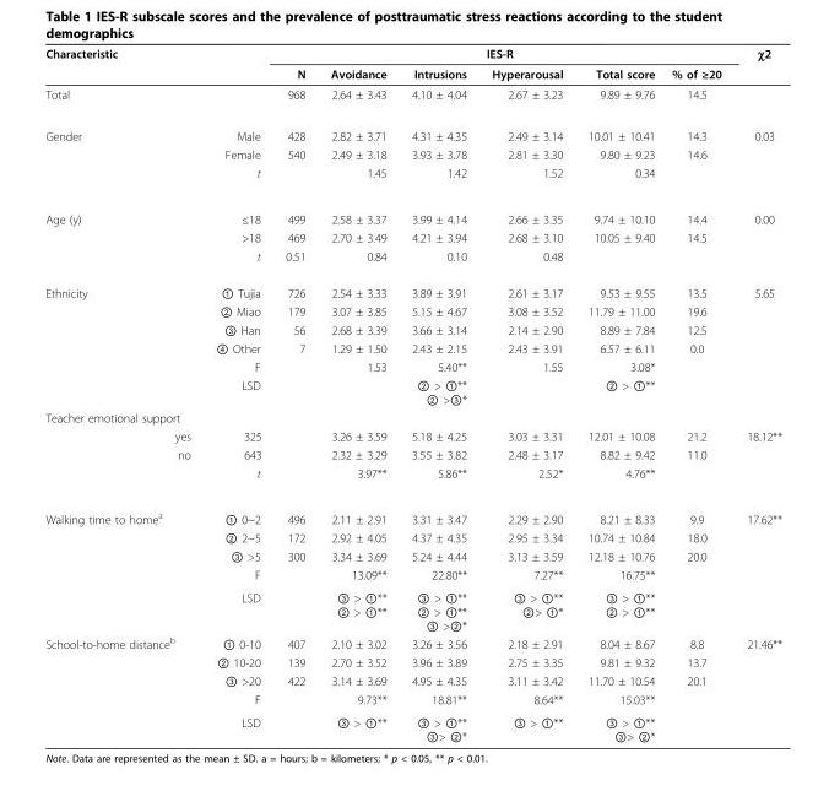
<table><thead><tr><td colspan="2">Characteristic</td><td colspan="6">IES-R</td><td rowspan="2">χ2</td></tr><tr><td></td><td></td><td>N</td><td>Avoidance</td><td>Intrusions</td><td>Hyperarousal</td><td>Total score</td><td>% of ≥20</td></tr></thead><tbody><tr><td>Total</td><td></td><td>968</td><td>2.64 ± 3.43</td><td>4.10 ± 4.04</td><td>2.67 ± 3.23</td><td>9.89 ± 9.76</td><td>14.5</td><td></td></tr><tr><td rowspan="3">Gender</td><td>Male</td><td>428</td><td>2.82 ± 3.71</td><td>4.31 ± 4.35</td><td>2.49 ± 3.14</td><td>10.01 ± 10.41</td><td>14.3</td><td>0.03</td></tr><tr><td>Female</td><td>540</td><td>2.49 ± 3.18</td><td>3.93 ± 3.78</td><td>2.81 ± 3.30</td><td>9.80 ± 9.23</td><td>14.6</td><td></td></tr><tr><td>t</td><td></td><td>1.45</td><td>1.42</td><td>1.52</td><td>0.34</td><td></td><td></td></tr><tr><td rowspan="3">Age (y)</td><td>≤18</td><td>499</td><td>2.58 ± 3.37</td><td>3.99 ± 4.14</td><td>2.66 ± 3.35</td><td>9.74 ± 10.10</td><td>14.4</td><td>0.00</td></tr><tr><td>&gt;18</td><td>469</td><td>2.70 ± 3.49</td><td>4.21 ± 3.94</td><td>2.68 ± 3.10</td><td>10.05 ± 9.40</td><td>14.5</td><td></td></tr><tr><td>t</td><td>0.51</td><td>0.84</td><td>0.10</td><td>0.48</td><td></td><td></td><td></td></tr><tr><td rowspan="6">Ethnicity</td><td>① Tujia</td><td>726</td><td>2.54 ± 3.33</td><td>3.89 ± 3.91</td><td>2.61 ± 3.17</td><td>9.53 ± 9.55</td><td>13.5</td><td>5.65</td></tr><tr><td>② Miao</td><td>179</td><td>3.07 ± 3.85</td><td>5.15 ± 4.67</td><td>3.08 ± 3.52</td><td>11.79 ± 11.00</td><td>19.6</td><td></td></tr><tr><td>③ Han</td><td>56</td><td>2.68 ± 3.39</td><td>3.66 ± 3.14</td><td>2.14 ± 2.90</td><td>8.89 ± 7.84</td><td>12.5</td><td></td></tr><tr><td>④ Other</td><td>7</td><td>1.29 ± 1.50</td><td>2.43 ± 2.15</td><td>2.43 ± 3.91</td><td>6.57 ± 6.11</td><td>0.0</td><td></td></tr><tr><td>F</td><td></td><td>1.53</td><td>5.40**</td><td>1.55</td><td>3.08*</td><td></td><td></td></tr><tr><td>LSD</td><td></td><td></td><td>② &gt; ①** ② &gt;③*</td><td></td><td>② &gt; ①**</td><td></td><td></td></tr><tr><td colspan="9">Teacher emotional support</td></tr><tr><td>yes</td><td colspan="2">325</td><td>3.26 ± 3.59</td><td>5.18 ± 4.25</td><td>3.03 ± 3.31</td><td>12.01 ± 10.08</td><td>21.2</td><td>18.12**</td></tr><tr><td rowspan="2">no</td><td colspan="2">643</td><td>2.32 ± 3.29</td><td>3.55 ± 3.82</td><td>2.48 ± 3.17</td><td>8.82 ± 9.42</td><td>11.0</td><td></td></tr><tr><td>t</td><td></td><td>3.97**</td><td>5.86**</td><td>2.52*</td><td>4.76**</td><td></td><td></td></tr><tr><td rowspan="5">Walking time to home<sup>a</sup></td><td>① 0~2</td><td>496</td><td>2.11 ± 2.91</td><td>3.31 ± 3.47</td><td>2.29 ± 2.90</td><td>8.21 ± 8.33</td><td>9.9</td><td>17.62**</td></tr><tr><td>② 2~5</td><td>172</td><td>2.92 ± 4.05</td><td>4.37 ± 4.35</td><td>2.95 ± 3.34</td><td>10.74 ± 10.84</td><td>18.0</td><td></td></tr><tr><td>③ &gt;5</td><td>300</td><td>3.34 ± 3.69</td><td>5.24 ± 4.44</td><td>3.13 ± 3.59</td><td>12.18 ± 10.76</td><td>20.0</td><td></td></tr><tr><td>F</td><td></td><td>13.09**</td><td>22.80**</td><td>7.27**</td><td>16.75**</td><td></td><td></td></tr><tr><td>LSD</td><td></td><td>③ &gt; ①** ② &gt; ①**</td><td>③ &gt; ①** ② &gt; ①** ③ &gt;②*</td><td>③ &gt; ①** ②&gt; ①*</td><td>③ &gt; ①** ② &gt; ①**</td><td></td><td></td></tr><tr><td rowspan="5">School-to-home distance<sup>b</sup></td><td>① 0-10</td><td>407</td><td>2.10 ± 3.02</td><td>3.26 ± 3.56</td><td>2.18 ± 2.91</td><td>8.04 ± 8.67</td><td>8.8</td><td>21.46**</td></tr><tr><td>② 10-20</td><td>139</td><td>2.70 ± 3.52</td><td>3.96 ± 3.89</td><td>2.75 ± 3.35</td><td>9.81 ± 9.32</td><td>13.7</td><td></td></tr><tr><td>③ &gt;20</td><td>422</td><td>3.14 ± 3.69</td><td>4.95 ± 4.35</td><td>3.11 ± 3.42</td><td>11.70 ± 10.54</td><td>20.1</td><td></td></tr><tr><td>F</td><td></td><td>9.73**</td><td>18.81**</td><td>8.64**</td><td>15.03**</td><td></td><td></td></tr><tr><td>LSD</td><td></td><td>③ &gt; ①**</td><td>③ &gt; ①** ③&gt; ②*</td><td>③ &gt; ①**</td><td>③ &gt; ①** ③&gt; ②*</td><td></td><td></td></tr></tbody></table>